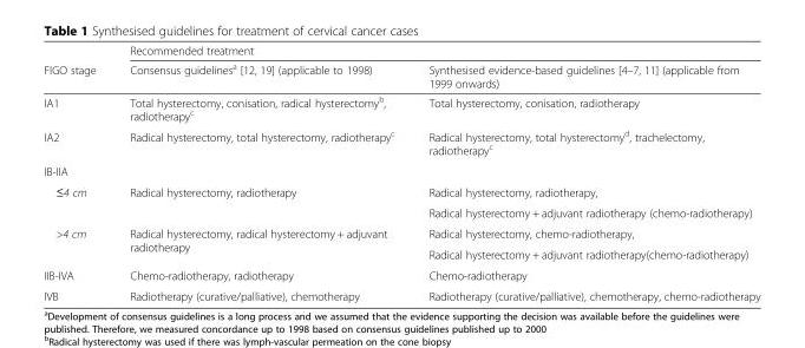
<table><thead><tr><td rowspan="2">FIGO stage</td><td colspan="2">Recommended treatment</td></tr><tr><td>Consensus guidelines<sup>a</sup> [12, 19] (applicable to 1998)</td><td>Synthesised evidence-based guidelines [4–7, 11] (applicable from 1999 onwards)</td></tr></thead><tbody><tr><td>IA1</td><td>Total hysterectomy, conisation, radical hysterectomy<sup>b</sup>, radiotherapy<sup>c</sup></td><td>Total hysterectomy, conisation, radiotherapy</td></tr><tr><td>IA2</td><td>Radical hysterectomy, total hysterectomy, radiotherapy<sup>c</sup></td><td>Radical hysterectomy, total hysterectomy<sup>d</sup>, trachelectomy, radiotherapy<sup>c</sup></td></tr><tr><td colspan="3">IB-IIA</td></tr><tr><td rowspan="2">≤4 cm</td><td rowspan="2">Radical hysterectomy, radiotherapy</td><td>Radical hysterectomy, radiotherapy,</td></tr><tr><td>Radical hysterectomy + adjuvant radiotherapy (chemo-radiotherapy)</td></tr><tr><td rowspan="2">&gt;4 cm</td><td rowspan="2">Radical hysterectomy, radical hysterectomy + adjuvant radiotherapy</td><td>Radical hysterectomy, chemo-radiotherapy,</td></tr><tr><td>Radical hysterectomy + adjuvant radiotherapy(chemo-radiotherapy)</td></tr><tr><td>IIB-IVA</td><td>Chemo-radiotherapy, radiotherapy</td><td>Chemo-radiotherapy</td></tr><tr><td>IVB</td><td>Radiotherapy (curative/palliative), chemotherapy</td><td>Radiotherapy (curative/palliative), chemotherapy, chemo-radiotherapy</td></tr></tbody></table>